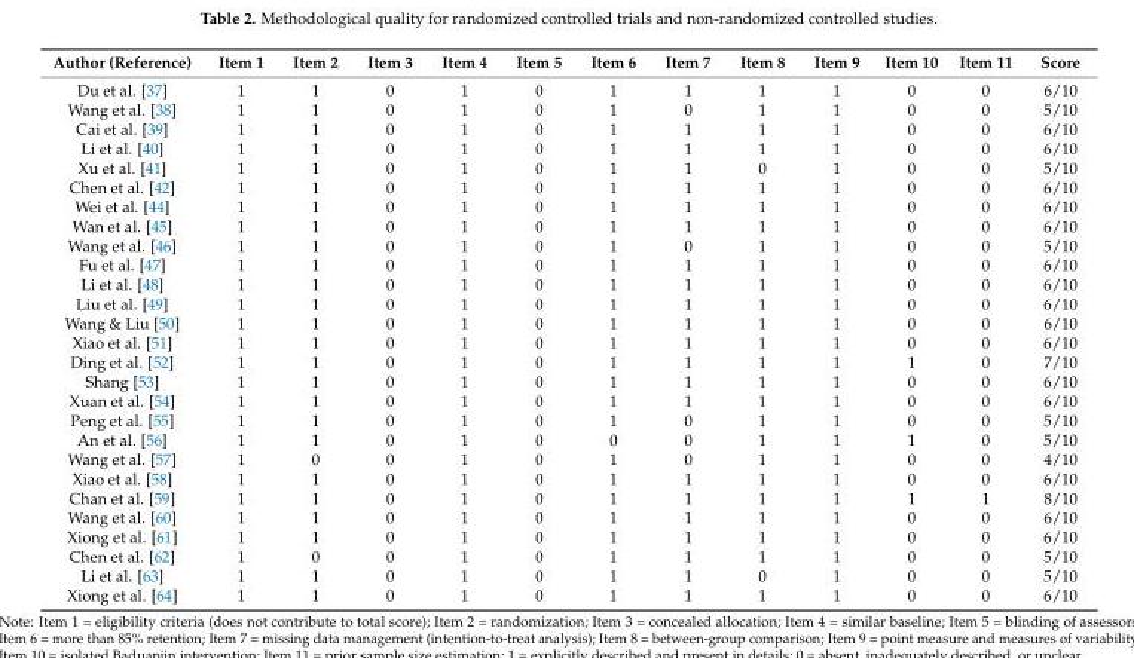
<table><thead><tr><td>Author (Reference)</td><td>Item 1</td><td>Item 2</td><td>Item 3</td><td>Item 4</td><td>Item 5</td><td>Item 6</td><td>Item 7</td><td>Item 8</td><td>Item 9</td><td>Item 10</td><td>Item 11</td><td>Score</td></tr></thead><tbody><tr><td>Du et al. [37]</td><td>1</td><td>1</td><td>0</td><td>1</td><td>0</td><td>1</td><td>1</td><td>1</td><td>1</td><td>0</td><td>0</td><td>6/10</td></tr><tr><td>Wang et al. [38]</td><td>1</td><td>1</td><td>0</td><td>1</td><td>0</td><td>1</td><td>0</td><td>1</td><td>1</td><td>0</td><td>0</td><td>5/10</td></tr><tr><td>Cai et al. [39]</td><td>1</td><td>1</td><td>0</td><td>1</td><td>0</td><td>1</td><td>1</td><td>1</td><td>1</td><td>0</td><td>0</td><td>6/10</td></tr><tr><td>Li et al. [40]</td><td>1</td><td>1</td><td>0</td><td>1</td><td>0</td><td>1</td><td>1</td><td>1</td><td>1</td><td>0</td><td>0</td><td>6/10</td></tr><tr><td>Xu et al. [41]</td><td>1</td><td>1</td><td>0</td><td>1</td><td>0</td><td>1</td><td>1</td><td>0</td><td>1</td><td>0</td><td>0</td><td>5/10</td></tr><tr><td>Chen et al. [42]</td><td>1</td><td>1</td><td>0</td><td>1</td><td>0</td><td>1</td><td>1</td><td>1</td><td>1</td><td>0</td><td>0</td><td>6/10</td></tr><tr><td>Wei et al. [44]</td><td>1</td><td>1</td><td>0</td><td>1</td><td>0</td><td>1</td><td>1</td><td>1</td><td>1</td><td>0</td><td>0</td><td>6/10</td></tr><tr><td>Wan et al. [45]</td><td>1</td><td>1</td><td>0</td><td>1</td><td>0</td><td>1</td><td>1</td><td>1</td><td>1</td><td>0</td><td>0</td><td>6/10</td></tr><tr><td>Wang et al. [46]</td><td>1</td><td>1</td><td>0</td><td>1</td><td>0</td><td>1</td><td>0</td><td>1</td><td>1</td><td>0</td><td>0</td><td>5/10</td></tr><tr><td>Fu et al. [47]</td><td>1</td><td>1</td><td>0</td><td>1</td><td>0</td><td>1</td><td>1</td><td>1</td><td>1</td><td>0</td><td>0</td><td>6/10</td></tr><tr><td>Li et al. [48]</td><td>1</td><td>1</td><td>0</td><td>1</td><td>0</td><td>1</td><td>1</td><td>1</td><td>1</td><td>0</td><td>0</td><td>6/10</td></tr><tr><td>Liu et al. [49]</td><td>1</td><td>1</td><td>0</td><td>1</td><td>0</td><td>1</td><td>1</td><td>1</td><td>1</td><td>0</td><td>0</td><td>6/10</td></tr><tr><td>Wang &amp; Liu [50]</td><td>1</td><td>1</td><td>0</td><td>1</td><td>0</td><td>1</td><td>1</td><td>1</td><td>1</td><td>0</td><td>0</td><td>6/10</td></tr><tr><td>Xiao et al. [51]</td><td>1</td><td>1</td><td>0</td><td>1</td><td>0</td><td>1</td><td>1</td><td>1</td><td>1</td><td>0</td><td>0</td><td>6/10</td></tr><tr><td>Ding et al. [52]</td><td>1</td><td>1</td><td>0</td><td>1</td><td>0</td><td>1</td><td>1</td><td>1</td><td>1</td><td>1</td><td>0</td><td>7/10</td></tr><tr><td>Shang [53]</td><td>1</td><td>1</td><td>0</td><td>1</td><td>0</td><td>1</td><td>1</td><td>1</td><td>1</td><td>0</td><td>0</td><td>6/10</td></tr><tr><td>Xuan et al. [54]</td><td>1</td><td>1</td><td>0</td><td>1</td><td>0</td><td>1</td><td>1</td><td>1</td><td>1</td><td>0</td><td>0</td><td>6/10</td></tr><tr><td>Peng et al. [55]</td><td>1</td><td>1</td><td>0</td><td>1</td><td>0</td><td>1</td><td>0</td><td>1</td><td>1</td><td>0</td><td>0</td><td>5/10</td></tr><tr><td>An et al. [56]</td><td>1</td><td>1</td><td>0</td><td>1</td><td>0</td><td>0</td><td>0</td><td>1</td><td>1</td><td>1</td><td>0</td><td>5/10</td></tr><tr><td>Wang et al. [57]</td><td>1</td><td>0</td><td>0</td><td>1</td><td>0</td><td>1</td><td>0</td><td>1</td><td>1</td><td>0</td><td>0</td><td>4/10</td></tr><tr><td>Xiao et al. [58]</td><td>1</td><td>1</td><td>0</td><td>1</td><td>0</td><td>1</td><td>1</td><td>1</td><td>1</td><td>0</td><td>0</td><td>6/10</td></tr><tr><td>Chan et al. [59]</td><td>1</td><td>1</td><td>0</td><td>1</td><td>0</td><td>1</td><td>1</td><td>1</td><td>1</td><td>1</td><td>1</td><td>8/10</td></tr><tr><td>Wang et al. [60]</td><td>1</td><td>1</td><td>0</td><td>1</td><td>0</td><td>1</td><td>1</td><td>1</td><td>1</td><td>0</td><td>0</td><td>6/10</td></tr><tr><td>Xiong et al. [61]</td><td>1</td><td>1</td><td>0</td><td>1</td><td>0</td><td>1</td><td>1</td><td>1</td><td>1</td><td>0</td><td>0</td><td>6/10</td></tr><tr><td>Chen et al. [62]</td><td>1</td><td>0</td><td>0</td><td>1</td><td>0</td><td>1</td><td>1</td><td>1</td><td>1</td><td>0</td><td>0</td><td>5/10</td></tr><tr><td>Li et al. [63]</td><td>1</td><td>1</td><td>0</td><td>1</td><td>0</td><td>1</td><td>1</td><td>0</td><td>1</td><td>0</td><td>0</td><td>5/10</td></tr><tr><td>Xiong et al. [64]</td><td>1</td><td>1</td><td>0</td><td>1</td><td>0</td><td>1</td><td>1</td><td>1</td><td>1</td><td>0</td><td>0</td><td>6/10</td></tr></tbody></table>